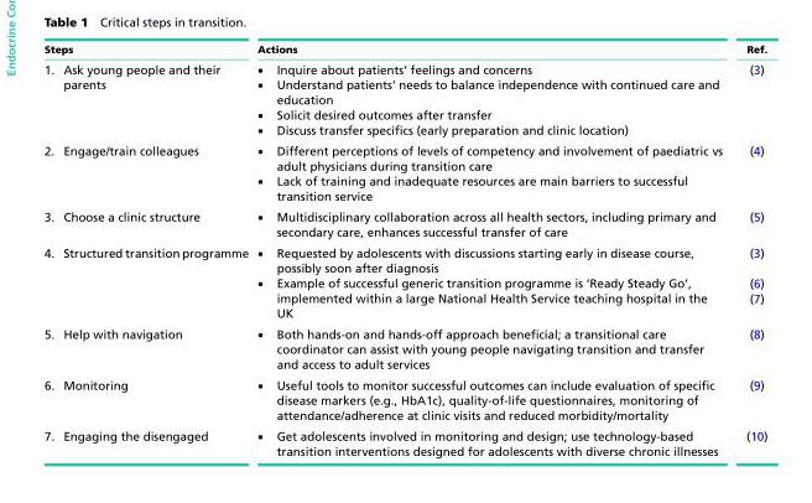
<table><thead><tr><td>Steps</td><td>Actions</td><td>Ref.</td></tr></thead><tbody><tr><td>1. Ask young people and their parents</td><td>• Inquire about patients’ feelings and concerns • Understand patients’ needs to balance independence with continued care and education • Solicit desired outcomes after transfer • Discuss transfer specifics (early preparation and clinic location)</td><td>(3)</td></tr><tr><td>2. Engage/train colleagues</td><td>• Different perceptions of levels of competency and involvement of paediatric vs adult physicians during transition care • Lack of training and inadequate resources are main barriers to successful transition service</td><td>(4)</td></tr><tr><td>3. Choose a clinic structure</td><td>• Multidisciplinary collaboration across all health sectors, including primary and secondary care, enhances successful transfer of care</td><td>(5)</td></tr><tr><td>4. Structured transition programme</td><td>• Requested by adolescents with discussions starting early in disease course, possibly soon after diagnosis • Example of successful generic transition programme is ‘Ready Steady Go’, implemented within a large National Health Service teaching hospital in the UK</td><td>(3) (6) (7)</td></tr><tr><td>5. Help with navigation</td><td>• Both hands-on and hands-off approach beneficial; a transitional care coordinator can assist with young people navigating transition and transfer and access to adult services</td><td>(8)</td></tr><tr><td>6. Monitoring</td><td>• Useful tools to monitor successful outcomes can include evaluation of specific disease markers (e.g., HbA1c), quality-of-life questionnaires, monitoring of attendance/adherence at clinic visits and reduced morbidity/mortality</td><td>(9)</td></tr><tr><td>7. Engaging the disengaged</td><td>• Get adolescents involved in monitoring and design; use technology-based transition interventions designed for adolescents with diverse chronic illnesses</td><td>(10)</td></tr></tbody></table>